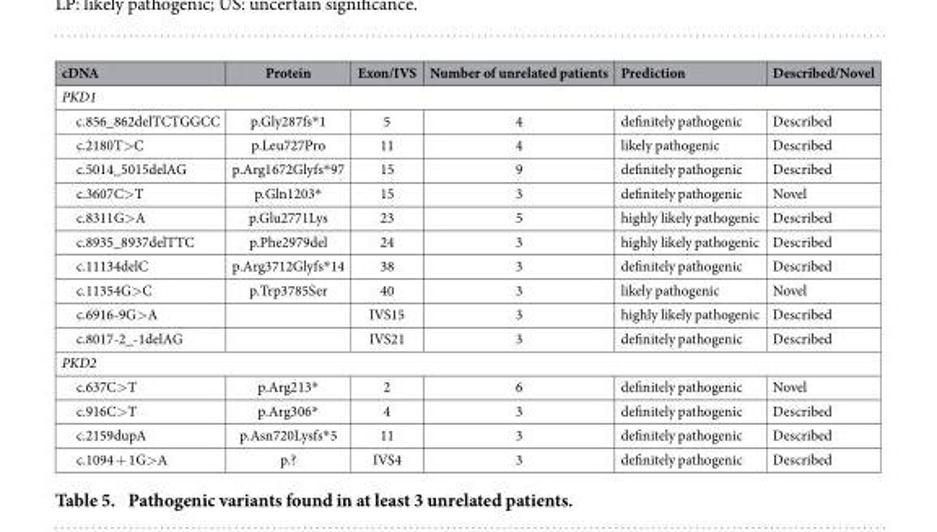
<table><thead><tr><td>cDNA</td><td>Protein</td><td>Exon/IVS</td><td>Number of unrelated patients</td><td>Prediction</td><td>Described/Novel</td></tr></thead><tbody><tr><td colspan="6">PKD1</td></tr><tr><td>c.856_862delTCTGGCC</td><td>p.Gly287fs* 1</td><td>5</td><td>4</td><td>definitely pathogenic</td><td>Described</td></tr><tr><td>c.2180T&gt; C</td><td>p.Leu727Pro</td><td>11</td><td>4</td><td>likely pathogenic</td><td>Described</td></tr><tr><td>c.5014_5015delAG</td><td>p.Arg1672Glyfs* 97</td><td>15</td><td>9</td><td>definitely pathogenic</td><td>Described</td></tr><tr><td>c.3607C&gt; T</td><td>p.Gln1203*</td><td>15</td><td>3</td><td>definitely pathogenic</td><td>Novel</td></tr><tr><td>c.8311G&gt; A</td><td>p.Glu2771Lys</td><td>23</td><td>5</td><td>highly likely pathogenic</td><td>Described</td></tr><tr><td>c.8935_8937delTTC</td><td>p.Phe2979del</td><td>24</td><td>3</td><td>highly likely pathogenic</td><td>Described</td></tr><tr><td>c.11134delC</td><td>p.Arg3712Glyfs* 14</td><td>38</td><td>3</td><td>definitely pathogenic</td><td>Described</td></tr><tr><td>c.11354G&gt; C</td><td>p.Trp3785Ser</td><td>40</td><td>3</td><td>likely pathogenic</td><td>Novel</td></tr><tr><td>c.6916-9G&gt; A</td><td></td><td>IVS15</td><td>3</td><td>highly likely pathogenic</td><td>Described</td></tr><tr><td>c.8017-2_-1delAG</td><td></td><td>IVS21</td><td>3</td><td>definitely pathogenic</td><td>Described</td></tr><tr><td colspan="6">PKD2</td></tr><tr><td>c.637C&gt; T</td><td>p.Arg213*</td><td>2</td><td>6</td><td>definitely pathogenic</td><td>Novel</td></tr><tr><td>c.916C&gt; T</td><td>p.Arg306*</td><td>4</td><td>3</td><td>definitely pathogenic</td><td>Described</td></tr><tr><td>c.2159dupA</td><td>p.Asn720Lysfs* 5</td><td>11</td><td>3</td><td>definitely pathogenic</td><td>Described</td></tr><tr><td>c.1094 + 1G&gt; A</td><td>p.?</td><td>IVS4</td><td>3</td><td>definitely pathogenic</td><td>Described</td></tr></tbody></table>